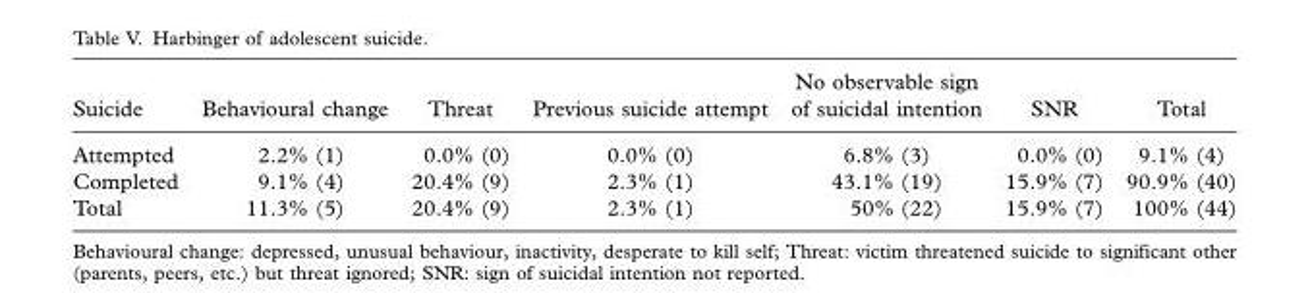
<table><thead><tr><td>Suicide</td><td>Behavioural change</td><td>Threat</td><td>Previous suicide attempt</td><td>No observable sign of suicidal intention</td><td>SNR</td><td>Total</td></tr></thead><tbody><tr><td>Attempted</td><td>2.2% (1)</td><td>0.0% (0)</td><td>0.0% (0)</td><td>6.8% (3)</td><td>0.0% (0)</td><td>9.1% (4)</td></tr><tr><td>Completed</td><td>9.1% (4)</td><td>20.4% (9)</td><td>2.3% (1)</td><td>43.1% (19)</td><td>15.9% (7)</td><td>90.9% (40)</td></tr><tr><td>Total</td><td>11.3% (5)</td><td>20.4% (9)</td><td>2.3% (1)</td><td>50% (22)</td><td>15.9% (7)</td><td>100% (44)</td></tr></tbody></table>